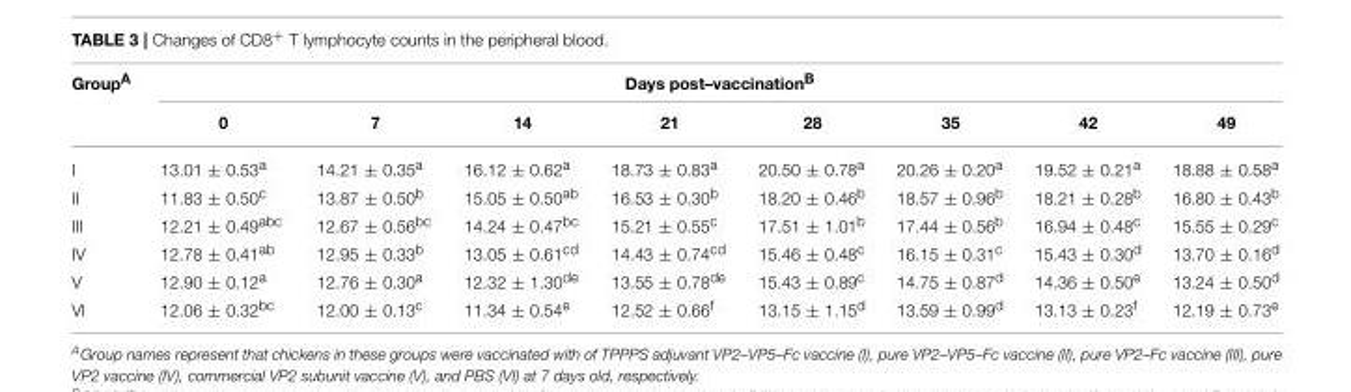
<table><thead><tr><td rowspan="2">Group<sup>A</sup></td><td colspan="8">Days post–vaccination<sup>B</sup></td></tr><tr><td>0</td><td>7</td><td>14</td><td>21</td><td>28</td><td>35</td><td>42</td><td>49</td></tr></thead><tbody><tr><td>I</td><td>13.01 ± 0.53<sup>a</sup></td><td>14.21 ± 0.35<sup>a</sup></td><td>16.12 ± 0.62<sup>a</sup></td><td>18.73 ± 0.83<sup>a</sup></td><td>20.50 ± 0.78<sup>a</sup></td><td>20.26 ± 0.20<sup>a</sup></td><td>19.52 ± 0.21<sup>a</sup></td><td>18.88 ± 0.58<sup>a</sup></td></tr><tr><td>II</td><td>11.83 ± 0.50<sup>c</sup></td><td>13.87 ± 0.50<sup>b</sup></td><td>15.05 ± 0.50<sup>ab</sup></td><td>16.53 ± 0.30<sup>b</sup></td><td>18.20 ± 0.46<sup>b</sup></td><td>18.57 ± 0.96<sup>b</sup></td><td>18.21 ± 0.28<sup>b</sup></td><td>16.80 ± 0.43<sup>b</sup></td></tr><tr><td>III</td><td>12.21 ± 0.49<sup>abc</sup></td><td>12.67 ± 0.56<sup>bc</sup></td><td>14.24 ± 0.47<sup>bc</sup></td><td>15.21 ± 0.55<sup>c</sup></td><td>17.51 ± 1.01<sup>b</sup></td><td>17.44 ± 0.56<sup>b</sup></td><td>16.94 ± 0.48<sup>c</sup></td><td>15.55 ± 0.29<sup>c</sup></td></tr><tr><td>IV</td><td>12.78 ± 0.41<sup>ab</sup></td><td>12.95 ± 0.33<sup>b</sup></td><td>13.05 ± 0.61<sup>cd</sup></td><td>14.43 ± 0.74<sup>cd</sup></td><td>15.46 ± 0.48<sup>c</sup></td><td>16.15 ± 0.31<sup>c</sup></td><td>15.43 ± 0.30<sup>d</sup></td><td>13.70 ± 0.16<sup>d</sup></td></tr><tr><td>V</td><td>12.90 ± 0.12<sup>a</sup></td><td>12.76 ± 0.30<sup>a</sup></td><td>12.32 ± 1.30<sup>de</sup></td><td>13.55 ± 0.78<sup>de</sup></td><td>15.43 ± 0.89<sup>c</sup></td><td>14.75 ± 0.87<sup>d</sup></td><td>14.36 ± 0.50<sup>e</sup></td><td>13.24 ± 0.50<sup>d</sup></td></tr><tr><td>VI</td><td>12.06 ± 0.32<sup>bc</sup></td><td>12.00 ± 0.13<sup>c</sup></td><td>11.34 ± 0.54<sup>e</sup></td><td>12.52 ± 0.66<sup>f</sup></td><td>13.15 ± 1.15<sup>d</sup></td><td>13.59 ± 0.99<sup>d</sup></td><td>13.13 ± 0.23<sup>f</sup></td><td>12.19 ± 0.73<sup>e</sup></td></tr></tbody></table>